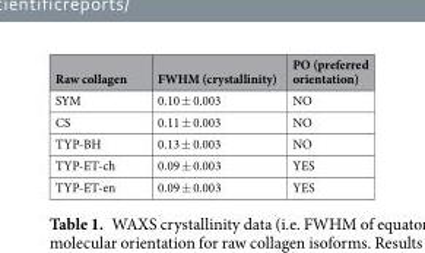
<table><thead><tr><td>Raw collagen</td><td>FWHM (crystallinity)</td><td>PO (preferred orientation)</td></tr></thead><tbody><tr><td>SYM</td><td>0.10 ± 0.003</td><td>NO</td></tr><tr><td>CS</td><td>0.11 ± 0.003</td><td>NO</td></tr><tr><td>TYP-BH</td><td>0.13 ± 0.003</td><td>NO</td></tr><tr><td>TYP-ET-ch</td><td>0.09 ± 0.003</td><td>YES</td></tr><tr><td>TYP-ET-en</td><td>0.09 ± 0.003</td><td>YES</td></tr></tbody></table>